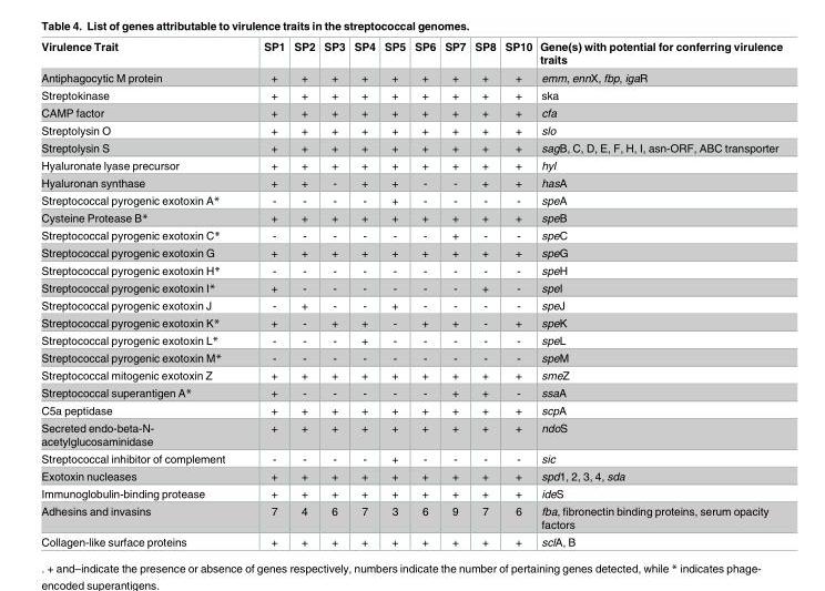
<table><thead><tr><td>Virulence Trait</td><td>SP1</td><td>SP2</td><td>SP3</td><td>SP4</td><td>SP5</td><td>SP6</td><td>SP7</td><td>SP8</td><td>SP10</td><td>Gene(s) with potential for conferring virulence traits</td></tr></thead><tbody><tr><td>Antiphagocytic M protein</td><td>+</td><td>+</td><td>+</td><td>+</td><td>+</td><td>+</td><td>+</td><td>+</td><td>+</td><td>emm, ennX, fbp, igaR</td></tr><tr><td>Streptokinase</td><td>+</td><td>+</td><td>+</td><td>+</td><td>+</td><td>+</td><td>+</td><td>+</td><td>+</td><td>ska</td></tr><tr><td>CAMP factor</td><td>+</td><td>+</td><td>+</td><td>+</td><td>+</td><td>+</td><td>+</td><td>+</td><td>+</td><td>cfa</td></tr><tr><td>Streptolysin O</td><td>+</td><td>+</td><td>+</td><td>+</td><td>+</td><td>+</td><td>+</td><td>+</td><td>+</td><td>slo</td></tr><tr><td>Streptolysin S</td><td>+</td><td>+</td><td>+</td><td>+</td><td>+</td><td>+</td><td>+</td><td>+</td><td>+</td><td>sagB, C, D, E, F, H, I, asn-ORF, ABC transporter</td></tr><tr><td>Hyaluronate lyase precursor</td><td>+</td><td>+</td><td>+</td><td>+</td><td>+</td><td>+</td><td>+</td><td>+</td><td>+</td><td>hyl</td></tr><tr><td>Hyaluronan synthase</td><td>+</td><td>+</td><td>-</td><td>+</td><td>+</td><td>-</td><td>-</td><td>+</td><td>+</td><td>hasA</td></tr><tr><td>Streptococcal pyrogenic exotoxin A*</td><td>-</td><td>-</td><td>-</td><td>-</td><td>+</td><td>-</td><td>-</td><td>-</td><td>-</td><td>speA</td></tr><tr><td>Cysteine Protease B*</td><td>+</td><td>+</td><td>+</td><td>+</td><td>+</td><td>+</td><td>+</td><td>+</td><td>+</td><td>speB</td></tr><tr><td>Streptococcal pyrogenic exotoxin C*</td><td>-</td><td>-</td><td>-</td><td>-</td><td>-</td><td>-</td><td>+</td><td>-</td><td>-</td><td>speC</td></tr><tr><td>Streptococcal pyrogenic exotoxin G</td><td>+</td><td>+</td><td>+</td><td>+</td><td>+</td><td>+</td><td>+</td><td>+</td><td>+</td><td>speG</td></tr><tr><td>Streptococcal pyrogenic exotoxin H*</td><td>-</td><td>-</td><td>-</td><td>-</td><td>-</td><td>-</td><td>-</td><td>-</td><td>-</td><td>speH</td></tr><tr><td>Streptococcal pyrogenic exotoxin I*</td><td>+</td><td>-</td><td>-</td><td>-</td><td>-</td><td>-</td><td>-</td><td>+</td><td>-</td><td>speI</td></tr><tr><td>Streptococcal pyrogenic exotoxin J</td><td>-</td><td>+</td><td>-</td><td>-</td><td>+</td><td>-</td><td>-</td><td>-</td><td>-</td><td>speJ</td></tr><tr><td>Streptococcal pyrogenic exotoxin K*</td><td>+</td><td>-</td><td>+</td><td>+</td><td>-</td><td>+</td><td>+</td><td>-</td><td>+</td><td>speK</td></tr><tr><td>Streptococcal pyrogenic exotoxin L*</td><td>-</td><td>-</td><td>-</td><td>+</td><td>-</td><td>-</td><td>-</td><td>-</td><td>-</td><td>speL</td></tr><tr><td>Streptococcal pyrogenic exotoxin M*</td><td>-</td><td>-</td><td>-</td><td>-</td><td>-</td><td>-</td><td>-</td><td>-</td><td>-</td><td>speM</td></tr><tr><td>Streptococcal mitogenic exotoxin Z</td><td>+</td><td>+</td><td>+</td><td>+</td><td>+</td><td>+</td><td>+</td><td>+</td><td>+</td><td>smeZ</td></tr><tr><td>Streptococcal superantigen A*</td><td>+</td><td>-</td><td>-</td><td>-</td><td>-</td><td>-</td><td>+</td><td>+</td><td>-</td><td>ssaA</td></tr><tr><td>C5a peptidase</td><td>+</td><td>+</td><td>+</td><td>+</td><td>+</td><td>+</td><td>+</td><td>+</td><td>+</td><td>scpA</td></tr><tr><td>Secreted endo-beta-N- acetylglucosaminidase</td><td>+</td><td>+</td><td>+</td><td>+</td><td>+</td><td>+</td><td>+</td><td>+</td><td>+</td><td>ndoS</td></tr><tr><td>Streptococcal inhibitor of complement</td><td>-</td><td>-</td><td>-</td><td>-</td><td>+</td><td>-</td><td>-</td><td>-</td><td>-</td><td>sic</td></tr><tr><td>Exotoxin nucleases</td><td>+</td><td>+</td><td>+</td><td>+</td><td>+</td><td>+</td><td>+</td><td>+</td><td>+</td><td>spd1, 2, 3, 4, sda</td></tr><tr><td>Immunoglobulin-binding protease</td><td>+</td><td>+</td><td>+</td><td>+</td><td>+</td><td>+</td><td>+</td><td>+</td><td>+</td><td>ideS</td></tr><tr><td>Adhesins and invasins</td><td>7</td><td>4</td><td>6</td><td>7</td><td>3</td><td>6</td><td>9</td><td>7</td><td>6</td><td>fba, fibronectin binding proteins, serum opacity factors</td></tr><tr><td>Collagen-like surface proteins</td><td>+</td><td>+</td><td>+</td><td>+</td><td>+</td><td>+</td><td>+</td><td>+</td><td>+</td><td>sclA, B</td></tr></tbody></table>